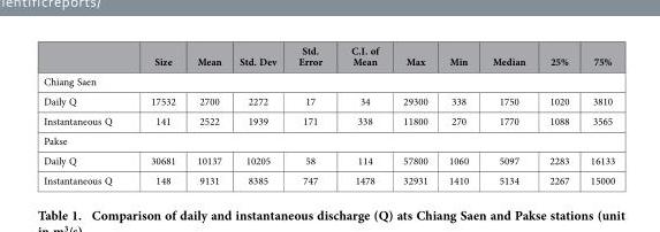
<table><thead><tr><td></td><td>Size</td><td>Mean</td><td>Std. Dev</td><td>Std. Error</td><td>C.I. of Mean</td><td>Max</td><td>Min</td><td>Median</td><td>25%</td><td>75%</td></tr></thead><tbody><tr><td colspan="11">Chiang Saen</td></tr><tr><td>Daily Q</td><td>17532</td><td>2700</td><td>2272</td><td>17</td><td>34</td><td>29300</td><td>338</td><td>1750</td><td>1020</td><td>3810</td></tr><tr><td>Instantaneous Q</td><td>141</td><td>2522</td><td>1939</td><td>171</td><td>338</td><td>11800</td><td>270</td><td>1770</td><td>1088</td><td>3565</td></tr><tr><td colspan="11">Pakse</td></tr><tr><td>Daily Q</td><td>30681</td><td>10137</td><td>10205</td><td>58</td><td>114</td><td>57800</td><td>1060</td><td>5097</td><td>2283</td><td>16133</td></tr><tr><td>Instantaneous Q</td><td>148</td><td>9131</td><td>8385</td><td>747</td><td>1478</td><td>32931</td><td>1410</td><td>5134</td><td>2267</td><td>15000</td></tr></tbody></table>